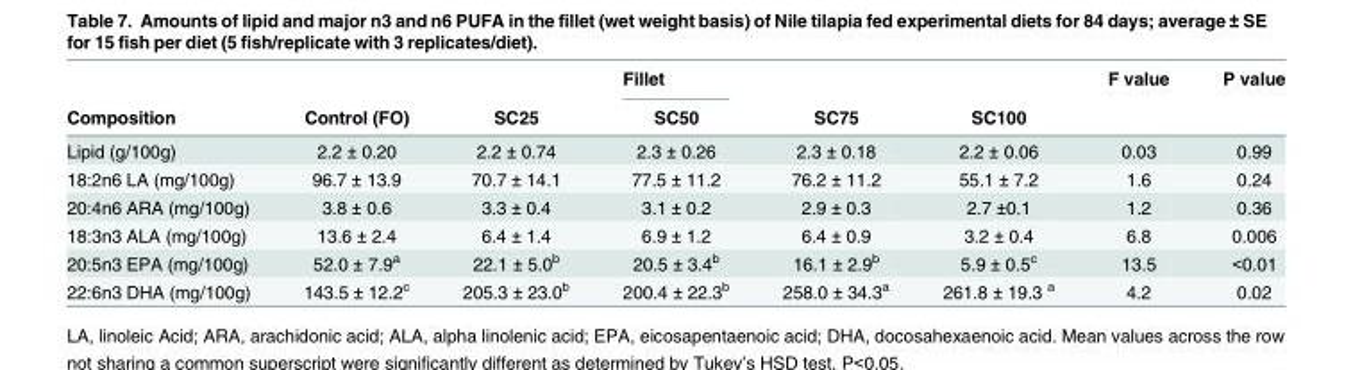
<table><thead><tr><td rowspan="2">Composition</td><td rowspan="2">Control (FO)</td><td rowspan="2">SC25</td><td rowspan="2">Fillet SC50</td><td rowspan="2">SC75</td><td rowspan="2">SC100</td><td rowspan="2">F value</td><td rowspan="2">P value</td></tr><tr></tr></thead><tbody><tr><td>Lipid (g/100g)</td><td>2.2 ± 0.20</td><td>2.2 ± 0.74</td><td>2.3 ± 0.26</td><td>2.3 ± 0.18</td><td>2.2 ± 0.06</td><td>0.03</td><td>0.99</td></tr><tr><td>18:2n6 LA (mg/100g)</td><td>96.7 ± 13.9</td><td>70.7 ± 14.1</td><td>77.5 ± 11.2</td><td>76.2 ± 11.2</td><td>55.1 ± 7.2</td><td>1.6</td><td>0.24</td></tr><tr><td>20:4n6 ARA (mg/100g)</td><td>3.8 ± 0.6</td><td>3.3 ± 0.4</td><td>3.1 ± 0.2</td><td>2.9 ± 0.3</td><td>2.7 ±0.1</td><td>1.2</td><td>0.36</td></tr><tr><td>18:3n3 ALA (mg/100g)</td><td>13.6 ± 2.4</td><td>6.4 ± 1.4</td><td>6.9 ± 1.2</td><td>6.4 ± 0.9</td><td>3.2 ± 0.4</td><td>6.8</td><td>0.006</td></tr><tr><td>20:5n3 EPA (mg/100g)</td><td>52.0 ± 7.9<sup>a</sup></td><td>22.1 ± 5.0<sup>b</sup></td><td>20.5 ± 3.4<sup>b</sup></td><td>16.1 ± 2.9<sup>b</sup></td><td>5.9 ± 0.5<sup>c</sup></td><td>13.5</td><td>&lt;0.01</td></tr><tr><td>22:6n3 DHA (mg/100g)</td><td>143.5 ± 12.2<sup>c</sup></td><td>205.3 ± 23.0<sup>b</sup></td><td>200.4 ± 22.3<sup>b</sup></td><td>258.0 ± 34.3<sup>a</sup></td><td>261.8 ± 19.3 <sup>a</sup></td><td>4.2</td><td>0.02</td></tr></tbody></table>